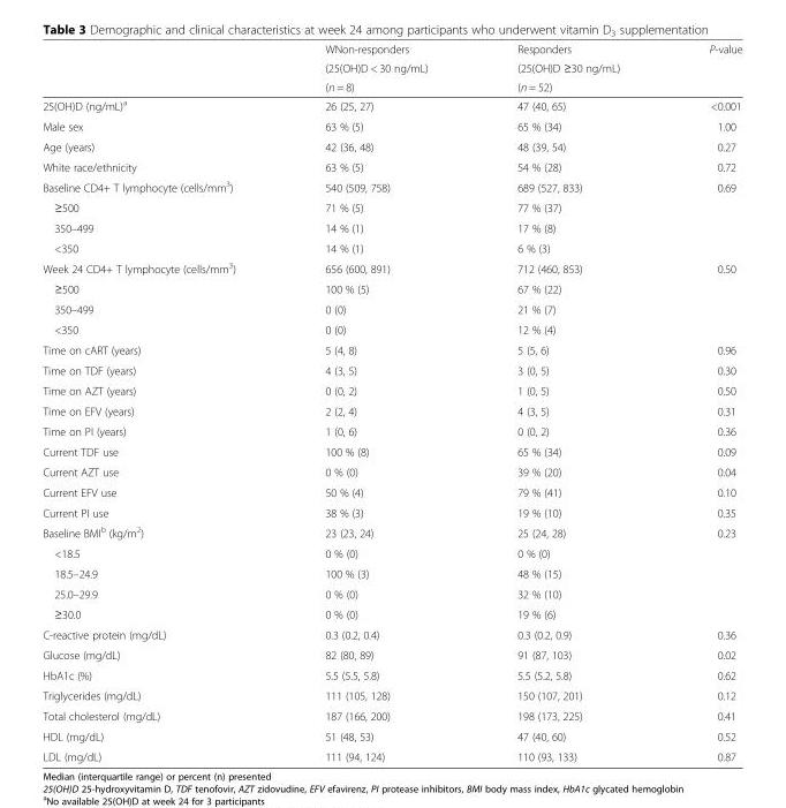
<table><thead><tr><td rowspan="3"></td><td rowspan="3">WNon-responders (25(OH)D &lt; 30 ng/mL) (n = 8)</td><td rowspan="3">Responders (25(OH)D ≥30 ng/mL) (n = 52)</td><td rowspan="3">P-value</td></tr><tr></tr><tr></tr></thead><tbody><tr><td>25(OH)D (ng/mL)<sup>a</sup></td><td>26 (25, 27)</td><td>47 (40, 65)</td><td>&lt;0.001</td></tr><tr><td>Male sex</td><td>63 % (5)</td><td>65 % (34)</td><td>1.00</td></tr><tr><td>Age (years)</td><td>42 (36, 48)</td><td>48 (39, 54)</td><td>0.27</td></tr><tr><td>White race/ethnicity</td><td>63 % (5)</td><td>54 % (28)</td><td>0.72</td></tr><tr><td>Baseline CD4+ T lymphocyte (cells/mm<sup>3</sup>)</td><td>540 (509, 758)</td><td>689 (527, 833)</td><td>0.69</td></tr><tr><td>≥500</td><td>71 % (5)</td><td>77 % (37)</td><td></td></tr><tr><td>350–499</td><td>14 % (1)</td><td>17 % (8)</td><td></td></tr><tr><td>&lt;350</td><td>14 % (1)</td><td>6 % (3)</td><td></td></tr><tr><td>Week 24 CD4+ T lymphocyte (cells/mm<sup>3</sup>)</td><td>656 (600, 891)</td><td>712 (460, 853)</td><td>0.50</td></tr><tr><td>≥500</td><td>100 % (5)</td><td>67 % (22)</td><td></td></tr><tr><td>350–499</td><td>0 (0)</td><td>21 % (7)</td><td></td></tr><tr><td>&lt;350</td><td>0 (0)</td><td>12 % (4)</td><td></td></tr><tr><td>Time on cART (years)</td><td>5 (4, 8)</td><td>5 (5, 6)</td><td>0.96</td></tr><tr><td>Time on TDF (years)</td><td>4 (3, 5)</td><td>3 (0, 5)</td><td>0.30</td></tr><tr><td>Time on AZT (years)</td><td>0 (0, 2)</td><td>1 (0, 5)</td><td>0.50</td></tr><tr><td>Time on EFV (years)</td><td>2 (2, 4)</td><td>4 (3, 5)</td><td>0.31</td></tr><tr><td>Time on PI (years)</td><td>1 (0, 6)</td><td>0 (0, 2)</td><td>0.36</td></tr><tr><td>Current TDF use</td><td>100 % (8)</td><td>65 % (34)</td><td>0.09</td></tr><tr><td>Current AZT use</td><td>0 % (0)</td><td>39 % (20)</td><td>0.04</td></tr><tr><td>Current EFV use</td><td>50 % (4)</td><td>79 % (41)</td><td>0.10</td></tr><tr><td>Current PI use</td><td>38 % (3)</td><td>19 % (10)</td><td>0.35</td></tr><tr><td>Baseline BMI<sup>b</sup> (kg/m<sup>2</sup>)</td><td>23 (23, 24)</td><td>25 (24, 28)</td><td>0.23</td></tr><tr><td>&lt;18.5</td><td>0 % (0)</td><td>0 % (0)</td><td></td></tr><tr><td>18.5–24.9</td><td>100 % (3)</td><td>48 % (15)</td><td></td></tr><tr><td>25.0–29.9</td><td>0 % (0)</td><td>32 % (10)</td><td></td></tr><tr><td>≥30.0</td><td>0 % (0)</td><td>19 % (6)</td><td></td></tr><tr><td>C-reactive protein (mg/dL)</td><td>0.3 (0.2, 0.4)</td><td>0.3 (0.2, 0.9)</td><td>0.36</td></tr><tr><td>Glucose (mg/dL)</td><td>82 (80, 89)</td><td>91 (87, 103)</td><td>0.02</td></tr><tr><td>HbA1c (%)</td><td>5.5 (5.5, 5.8)</td><td>5.5 (5.2, 5.8)</td><td>0.62</td></tr><tr><td>Triglycerides (mg/dL)</td><td>111 (105, 128)</td><td>150 (107, 201)</td><td>0.12</td></tr><tr><td>Total cholesterol (mg/dL)</td><td>187 (166, 200)</td><td>198 (173, 225)</td><td>0.41</td></tr><tr><td>HDL (mg/dL)</td><td>51 (48, 53)</td><td>47 (40, 60)</td><td>0.52</td></tr><tr><td>LDL (mg/dL)</td><td>111 (94, 124)</td><td>110 (93, 133)</td><td>0.87</td></tr></tbody></table>